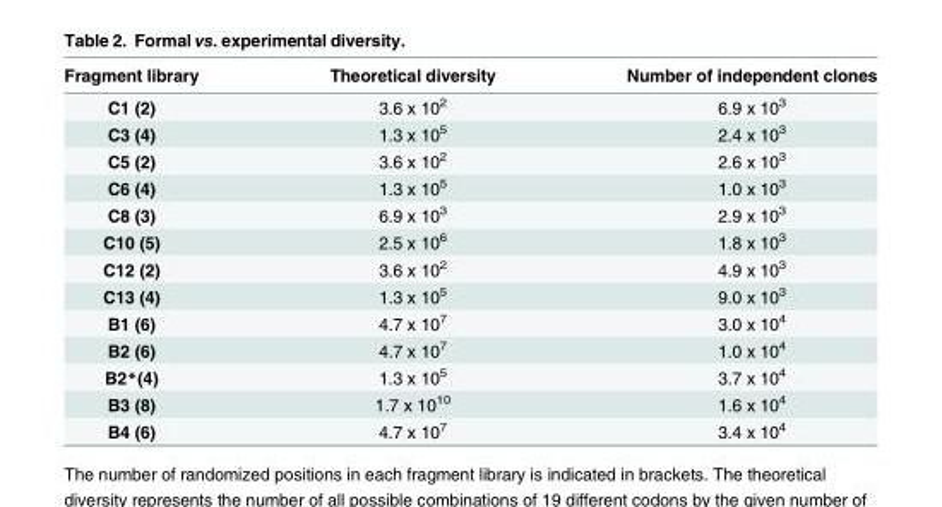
<table><thead><tr><td>Fragment library</td><td>Theoretical diversity</td><td>Number of independent clones</td></tr></thead><tbody><tr><td>C1 (2)</td><td>3.6 x 10<sup>2</sup></td><td>6.9 x 10<sup>3</sup></td></tr><tr><td>C3 (4)</td><td>1.3 x 10<sup>5</sup></td><td>2.4 x 10<sup>3</sup></td></tr><tr><td>C5 (2)</td><td>3.6 x 10<sup>2</sup></td><td>2.6 x 10<sup>3</sup></td></tr><tr><td>C6 (4)</td><td>1.3 x 10<sup>5</sup></td><td>1.0 x 10<sup>3</sup></td></tr><tr><td>C8 (3)</td><td>6.9 x 10<sup>3</sup></td><td>2.9 x 10<sup>3</sup></td></tr><tr><td>C10 (5)</td><td>2.5 x 10<sup>6</sup></td><td>1.8 x 10<sup>3</sup></td></tr><tr><td>C12 (2)</td><td>3.6 x 10<sup>2</sup></td><td>4.9 x 10<sup>3</sup></td></tr><tr><td>C13 (4)</td><td>1.3 x 10<sup>5</sup></td><td>9.0 x 10<sup>3</sup></td></tr><tr><td>B1 (6)</td><td>4.7 x 10<sup>7</sup></td><td>3.0 x 10<sup>4</sup></td></tr><tr><td>B2 (6)</td><td>4.7 x 10<sup>7</sup></td><td>1.0 x 10<sup>4</sup></td></tr><tr><td>B2*(4)</td><td>1.3 x 10<sup>5</sup></td><td>3.7 x 10<sup>4</sup></td></tr><tr><td>B3 (8)</td><td>1.7 x 10<sup>10</sup></td><td>1.6 x 10<sup>4</sup></td></tr><tr><td>B4 (6)</td><td>4.7 x 10<sup>7</sup></td><td>3.4 x 10<sup>4</sup></td></tr></tbody></table>